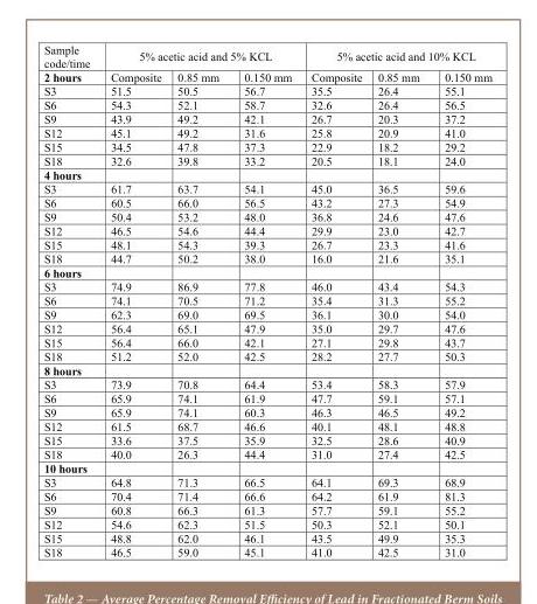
<table><thead><tr><td rowspan="2">Sample code/time 2 hours</td><td colspan="3">5% acetic acid and 5% KCL</td><td colspan="3">5% acetic acid and 10% KCL</td></tr><tr><td>Composite</td><td>0.85 mm</td><td>0.150 mm</td><td>Composite</td><td>0.85 mm</td><td>0.150 mm</td></tr></thead><tbody><tr><td>S3</td><td>51.5</td><td>50.5</td><td>56.7</td><td>35.5</td><td>26.4</td><td>55.1</td></tr><tr><td>S6</td><td>54.3</td><td>52.1</td><td>58.7</td><td>32.6</td><td>26.4</td><td>56.5</td></tr><tr><td>S9</td><td>43.9</td><td>49.2</td><td>42.1</td><td>26.7</td><td>20.3</td><td>37.2</td></tr><tr><td>S12</td><td>45.1</td><td>49.2</td><td>31.6</td><td>25.8</td><td>20.9</td><td>41.0</td></tr><tr><td>S15</td><td>34.5</td><td>47.8</td><td>37.3</td><td>22.9</td><td>18.2</td><td>29.2</td></tr><tr><td>S18</td><td>32.6</td><td>39.8</td><td>33.2</td><td>20.5</td><td>18.1</td><td>24.0</td></tr><tr><td colspan="7">4 hours</td></tr><tr><td>S3</td><td>61.7</td><td>63.7</td><td>54.1</td><td>45.0</td><td>36.5</td><td>59.6</td></tr><tr><td>S6</td><td>60.5</td><td>66.0</td><td>56.5</td><td>43.2</td><td>27.3</td><td>54.9</td></tr><tr><td>S9</td><td>50.4</td><td>53.2</td><td>48.0</td><td>36.8</td><td>24.6</td><td>47.6</td></tr><tr><td>S12</td><td>46.5</td><td>54.6</td><td>44.4</td><td>29.9</td><td>23.0</td><td>42.7</td></tr><tr><td>S15</td><td>48.1</td><td>54.3</td><td>39.3</td><td>26.7</td><td>23.3</td><td>41.6</td></tr><tr><td>S18</td><td>44.7</td><td>50.2</td><td>38.0</td><td>16.0</td><td>21.6</td><td>35.1</td></tr><tr><td colspan="7">6 hours</td></tr><tr><td>S3</td><td>74.9</td><td>86.9</td><td>77.8</td><td>46.0</td><td>43.4</td><td>54.3</td></tr><tr><td>S6</td><td>74.1</td><td>70.5</td><td>71.2</td><td>35.4</td><td>31.3</td><td>55.2</td></tr><tr><td>S9</td><td>62.3</td><td>69.0</td><td>69.5</td><td>36.1</td><td>30.0</td><td>54.0</td></tr><tr><td>S12</td><td>56.4</td><td>65.1</td><td>47.9</td><td>35.0</td><td>29.7</td><td>47.6</td></tr><tr><td>S15</td><td>56.4</td><td>66.0</td><td>42.1</td><td>27.1</td><td>29.8</td><td>43.7</td></tr><tr><td>S18</td><td>51.2</td><td>52.0</td><td>42.5</td><td>28.2</td><td>27.7</td><td>50.3</td></tr><tr><td colspan="7">8 hours</td></tr><tr><td>S3</td><td>73.9</td><td>70.8</td><td>64.4</td><td>53.4</td><td>58.3</td><td>57.9</td></tr><tr><td>S6</td><td>65.9</td><td>74.1</td><td>61.9</td><td>47.7</td><td>59.1</td><td>57.1</td></tr><tr><td>S9</td><td>65.9</td><td>74.1</td><td>60.3</td><td>46.3</td><td>46.5</td><td>49.2</td></tr><tr><td>S12</td><td>61.5</td><td>68.7</td><td>46.6</td><td>40.1</td><td>48.1</td><td>48.8</td></tr><tr><td>S15</td><td>33.6</td><td>37.5</td><td>35.9</td><td>32.5</td><td>28.6</td><td>40.9</td></tr><tr><td>S18</td><td>40.0</td><td>26.3</td><td>44.4</td><td>31.0</td><td>27.4</td><td>42.5</td></tr><tr><td colspan="7">10 hours</td></tr><tr><td>S3</td><td>64.8</td><td>71.3</td><td>66.5</td><td>64.1</td><td>69.3</td><td>68.9</td></tr><tr><td>S6</td><td>70.4</td><td>71.4</td><td>66.6</td><td>64.2</td><td>61.9</td><td>81.3</td></tr><tr><td>S9</td><td>60.8</td><td>66.3</td><td>61.3</td><td>57.7</td><td>59.1</td><td>55.2</td></tr><tr><td>S12</td><td>54.6</td><td>62.3</td><td>51.5</td><td>50.3</td><td>52.1</td><td>50.1</td></tr><tr><td>S15</td><td>48.8</td><td>62.0</td><td>46.1</td><td>43.5</td><td>49.9</td><td>35.3</td></tr><tr><td>S18</td><td>46.5</td><td>59.0</td><td>45.1</td><td>41.0</td><td>42.5</td><td>31.0</td></tr></tbody></table>